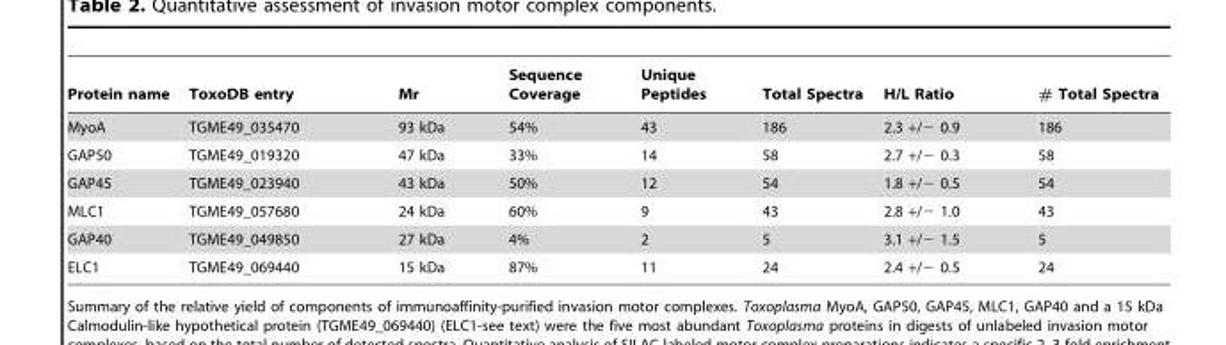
<table><thead><tr><td>Protein name</td><td>ToxoDB entry</td><td>Mr</td><td>Sequence Coverage</td><td>Unique Peptides</td><td>Total Spectra</td><td>H/L Ratio</td><td># Total Spectra</td></tr></thead><tbody><tr><td>MyoA</td><td>TGME49_035470</td><td>93 kDa</td><td>54%</td><td>43</td><td>186</td><td>2.3 +/− 0.9</td><td>186</td></tr><tr><td>GAP50</td><td>TGME49_019320</td><td>47 kDa</td><td>33%</td><td>14</td><td>58</td><td>2.7 +/− 0.3</td><td>58</td></tr><tr><td>GAP45</td><td>TGME49_023940</td><td>43 kDa</td><td>50%</td><td>12</td><td>54</td><td>1.8 +/− 0.5</td><td>54</td></tr><tr><td>MLC1</td><td>TGME49_057680</td><td>24 kDa</td><td>60%</td><td>9</td><td>43</td><td>2.8 +/− 1.0</td><td>43</td></tr><tr><td>GAP40</td><td>TGME49_049850</td><td>27 kDa</td><td>4%</td><td>2</td><td>5</td><td>3.1 +/− 1.5</td><td>5</td></tr><tr><td>ELC1</td><td>TGME49_069440</td><td>15 kDa</td><td>87%</td><td>11</td><td>24</td><td>2.4 +/− 0.5</td><td>24</td></tr></tbody></table>